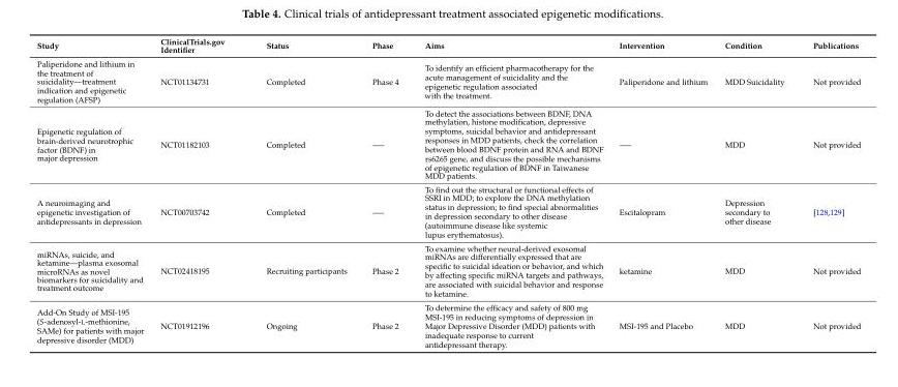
<table><thead><tr><td>Study</td><td>ClinicalTrials.gov Identifier</td><td>Status</td><td>Phase</td><td>Aims</td><td>Intervention</td><td>Condition</td><td>Publications</td></tr></thead><tbody><tr><td>Paliperidone and lithium in the treatment of suicidality—treatment indication and epigenetic regulation (AFSP)</td><td>NCT01134731</td><td>Completed</td><td>Phase 4</td><td>To identify an efficient pharmacotherapy for the acute management of suicidality and the epigenetic regulation associated with the treatment.</td><td>Paliperidone and lithium</td><td>MDD Suicidality</td><td>Not provided</td></tr><tr><td>Epigenetic regulation of brain-derived neurotrophic factor (BDNF) in major depression</td><td>NCT01182103</td><td>Completed</td><td>—–</td><td>To detect the associations between BDNF, DNA methylation, histone modification, depressive symptoms, suicidal behavior and antidepressant responses in MDD patients, check the correlation between blood BDNF protein and RNA and BDNF rs6265 gene, and discuss the possible mechanisms of epigenetic regulation of BDNF in Taiwanese MDD patients.</td><td>—–</td><td>MDD</td><td>Not provided</td></tr><tr><td>A neuroimaging and epigenetic investigation of antidepressants in depression</td><td>NCT00703742</td><td>Completed</td><td>—–</td><td>To find out the structural or functional effects of SSRI in MDD; to explore the DNA methylation status in depression; to find special abnormalities in depression secondary to other disease (autoimmune disease like systemic lupus erythematosus).</td><td>Escitalopram</td><td>Depression secondary to other disease</td><td>[128,129]</td></tr><tr><td>miRNAs, suicide, and ketamine—plasma exosomal microRNAs as novel biomarkers for suicidality and treatment outcome</td><td>NCT02418195</td><td>Recruiting participants</td><td>Phase 2</td><td>To examine whether neural-derived exosomal miRNAs are differentially expressed that are specific to suicidal ideation or behavior, and which by affecting specific miRNA targets and pathways, are associated with suicidal behavior and response to ketamine.</td><td>ketamine</td><td>MDD</td><td>Not provided</td></tr><tr><td>Add-On Study of MSI-195 (S-adenosyl-L-methionine, SAMe) for patients with major depressive disorder (MDD)</td><td>NCT01912196</td><td>Ongoing</td><td>Phase 2</td><td>To determine the efficacy and safety of 800 mg MSI-195 in reducing symptoms of depression in Major Depressive Disorder (MDD) patients with inadequate response to current antidepressant therapy.</td><td>MSI-195 and Placebo</td><td>MDD</td><td>Not provided</td></tr></tbody></table>